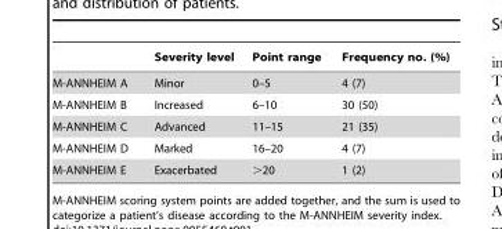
<table><thead><tr><td></td><td>Severity level</td><td>Point range</td><td>Frequency no. (%)</td></tr></thead><tbody><tr><td>M-ANNHEIM A</td><td>Minor</td><td>0–5</td><td>4 (7)</td></tr><tr><td>M-ANNHEIM B</td><td>Increased</td><td>6–10</td><td>30 (50)</td></tr><tr><td>M-ANNHEIM C</td><td>Advanced</td><td>11–15</td><td>21 (35)</td></tr><tr><td>M-ANNHEIM D</td><td>Marked</td><td>16–20</td><td>4 (7)</td></tr><tr><td>M-ANNHEIM E</td><td>Exacerbated</td><td>&gt;20</td><td>1 (2)</td></tr></tbody></table>